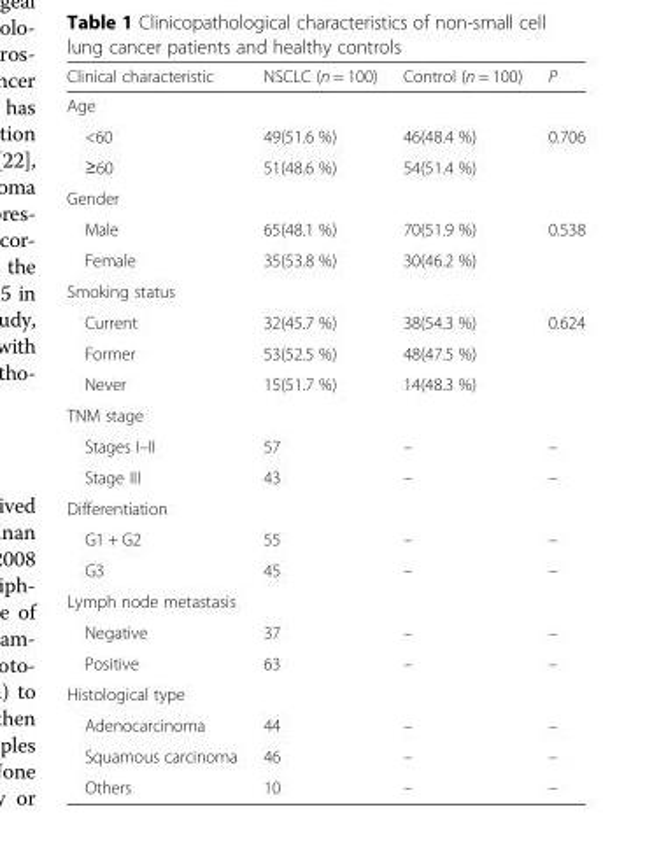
<table><thead><tr><td>Clinical characteristic</td><td>NSCLC (n = 100)</td><td>Control (n = 100)</td><td>P</td></tr></thead><tbody><tr><td colspan="4">Age</td></tr><tr><td>&lt;60</td><td>49(51.6 %)</td><td>46(48.4 %)</td><td>0.706</td></tr><tr><td>≥60</td><td>51(48.6 %)</td><td>54(51.4 %)</td><td></td></tr><tr><td colspan="4">Gender</td></tr><tr><td>Male</td><td>65(48.1 %)</td><td>70(51.9 %)</td><td>0.538</td></tr><tr><td>Female</td><td>35(53.8 %)</td><td>30(46.2 %)</td><td></td></tr><tr><td colspan="4">Smoking status</td></tr><tr><td>Current</td><td>32(45.7 %)</td><td>38(54.3 %)</td><td>0.624</td></tr><tr><td>Former</td><td>53(52.5 %)</td><td>48(47.5 %)</td><td></td></tr><tr><td>Never</td><td>15(51.7 %)</td><td>14(48.3 %)</td><td></td></tr><tr><td colspan="4">TNM stage</td></tr><tr><td>Stages I–II</td><td>57</td><td>–</td><td>–</td></tr><tr><td>Stage III</td><td>43</td><td>–</td><td>–</td></tr><tr><td colspan="4">Differentiation</td></tr><tr><td>G1 + G2</td><td>55</td><td>–</td><td>–</td></tr><tr><td>G3</td><td>45</td><td>–</td><td>–</td></tr><tr><td colspan="4">Lymph node metastasis</td></tr><tr><td>Negative</td><td>37</td><td>–</td><td>–</td></tr><tr><td>Positive</td><td>63</td><td>–</td><td>–</td></tr><tr><td colspan="4">Histological type</td></tr><tr><td>Adenocarcinoma</td><td>44</td><td>–</td><td>–</td></tr><tr><td>Squamous carcinoma</td><td>46</td><td>–</td><td>–</td></tr><tr><td>Others</td><td>10</td><td>–</td><td>–</td></tr></tbody></table>